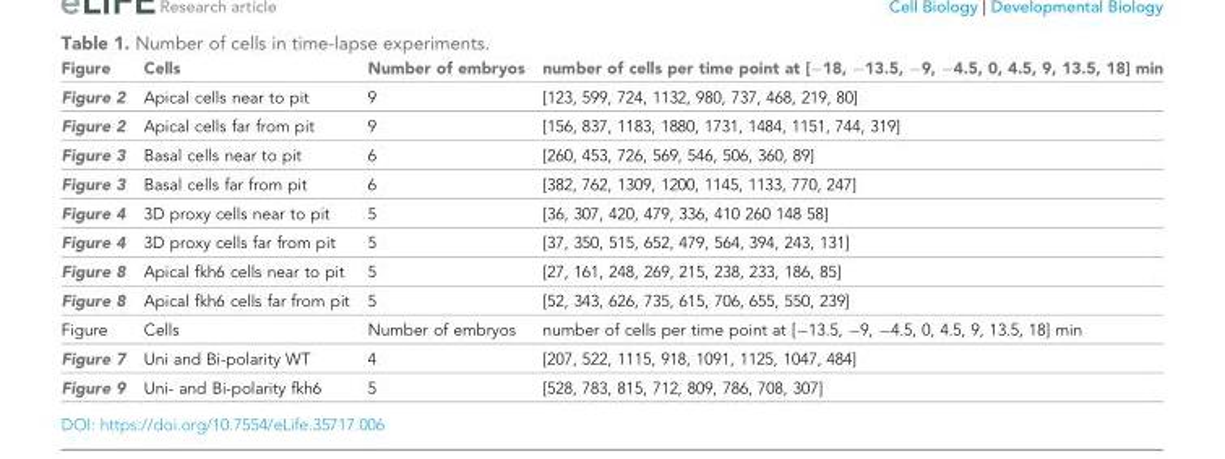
<table><thead><tr><td>Figure</td><td>Cells</td><td>Number of embryos</td><td>number of cells per time point at [−18, −13.5, −9, −4.5, 0, 4.5, 9, 13.5, 18] min</td></tr></thead><tbody><tr><td>Figure 2</td><td>Apical cells near to pit</td><td>9</td><td>[123, 599, 724, 1132, 980, 737, 468, 219, 80]</td></tr><tr><td>Figure 2</td><td>Apical cells far from pit</td><td>9</td><td>[156, 837, 1183, 1880, 1731, 1484, 1151, 744, 319]</td></tr><tr><td>Figure 3</td><td>Basal cells near to pit</td><td>6</td><td>[260, 453, 726, 569, 546, 506, 360, 89]</td></tr><tr><td>Figure 3</td><td>Basal cells far from pit</td><td>6</td><td>[382, 762, 1309, 1200, 1145, 1133, 770, 247]</td></tr><tr><td>Figure 4</td><td>3D proxy cells near to pit</td><td>5</td><td>[36, 307, 420, 479, 336, 410 260 148 58]</td></tr><tr><td>Figure 4</td><td>3D proxy cells far from pit</td><td>5</td><td>[37, 350, 515, 652, 479, 564, 394, 243, 131]</td></tr><tr><td>Figure 8</td><td>Apical fkh6 cells near to pit</td><td>5</td><td>[27, 161, 248, 269, 215, 238, 233, 186, 85]</td></tr><tr><td>Figure 8</td><td>Apical fkh6 cells far from pit</td><td>5</td><td>[52, 343, 626, 735, 615, 706, 655, 550, 239]</td></tr><tr><td>Figure</td><td>Cells</td><td>Number of embryos</td><td>number of cells per time point at [−13.5, −9, −4.5, 0, 4.5, 9, 13.5, 18] min</td></tr><tr><td>Figure 7</td><td>Uni and Bi-polarity WT</td><td>4</td><td>[207, 522, 1115, 918, 1091, 1125, 1047, 484]</td></tr><tr><td>Figure 9</td><td>Uni- and Bi-polarity fkh6</td><td>5</td><td>[528, 783, 815, 712, 809, 786, 708, 307]</td></tr></tbody></table>